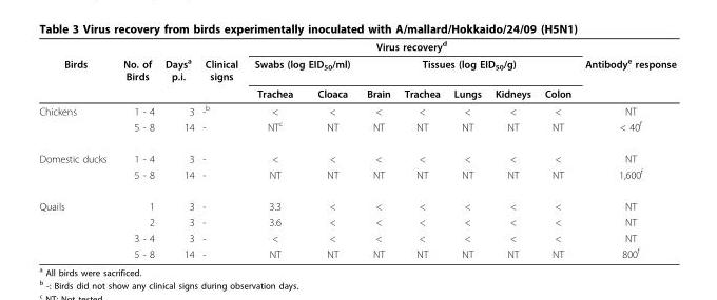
<table><thead><tr><td rowspan="3">Birds</td><td rowspan="3">No. of Birds</td><td rowspan="3">Days<sup>a</sup> p.i.</td><td rowspan="3">Clinical signs</td><td colspan="7">Virus recovery<sup>d</sup></td><td rowspan="3">Antibody<sup>e</sup> response</td></tr><tr><td colspan="2">Swabs (log EID<sub>50</sub>/ml)</td><td colspan="5">Tissues (log EID<sub>50</sub>/g)</td></tr><tr><td>Trachea</td><td>Cloaca</td><td>Brain</td><td>Trachea</td><td>Lungs</td><td>Kidneys</td><td>Colon</td></tr></thead><tbody><tr><td rowspan="2">Chickens</td><td>1 - 4</td><td>3</td><td>-<sup>b</sup></td><td>&lt;</td><td>&lt;</td><td>&lt;</td><td>&lt;</td><td>&lt;</td><td>&lt;</td><td>&lt;</td><td>NT</td></tr><tr><td>5 - 8</td><td>14</td><td>-</td><td>NT<sup>c</sup></td><td>NT</td><td>NT</td><td>NT</td><td>NT</td><td>NT</td><td>NT</td><td>&lt; 40<sup>f</sup></td></tr><tr><td rowspan="2">Domestic ducks</td><td>1 - 4</td><td>3</td><td>-</td><td>&lt;</td><td>&lt;</td><td>&lt;</td><td>&lt;</td><td>&lt;</td><td>&lt;</td><td>&lt;</td><td>NT</td></tr><tr><td>5 - 8</td><td>14</td><td>-</td><td>NT</td><td>NT</td><td>NT</td><td>NT</td><td>NT</td><td>NT</td><td>NT</td><td>1,600<sup>f</sup></td></tr><tr><td rowspan="4">Quails</td><td>1</td><td>3</td><td>-</td><td>3.3</td><td>&lt;</td><td>&lt;</td><td>&lt;</td><td>&lt;</td><td>&lt;</td><td>&lt;</td><td>NT</td></tr><tr><td>2</td><td>3</td><td>-</td><td>3.6</td><td>&lt;</td><td>&lt;</td><td>&lt;</td><td>&lt;</td><td>&lt;</td><td>&lt;</td><td>NT</td></tr><tr><td>3 - 4</td><td>3</td><td>-</td><td>&lt;</td><td>&lt;</td><td>&lt;</td><td>&lt;</td><td>&lt;</td><td>&lt;</td><td>&lt;</td><td>NT</td></tr><tr><td>5 - 8</td><td>14</td><td>-</td><td>NT</td><td>NT</td><td>NT</td><td>NT</td><td>NT</td><td>NT</td><td>NT</td><td>800<sup>f</sup></td></tr></tbody></table>